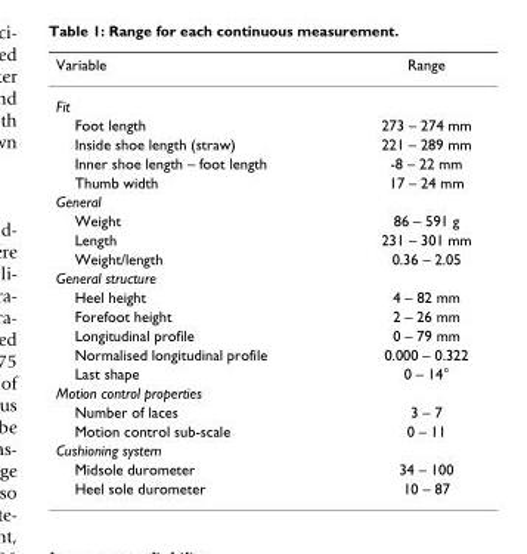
<table><thead><tr><td>Variable</td><td>Range</td></tr></thead><tbody><tr><td colspan="2">Fit</td></tr><tr><td>Foot length</td><td>273 – 274 mm</td></tr><tr><td>Inside shoe length (straw)</td><td>221 – 289 mm</td></tr><tr><td>Inner shoe length – foot length</td><td>-8 – 22 mm</td></tr><tr><td>Thumb width</td><td>17 – 24 mm</td></tr><tr><td colspan="2">General</td></tr><tr><td>Weight</td><td>86 – 591 g</td></tr><tr><td>Length</td><td>231 – 301 mm</td></tr><tr><td>Weight/length</td><td>0.36 – 2.05</td></tr><tr><td colspan="2">General structure</td></tr><tr><td>Heel height</td><td>4 – 82 mm</td></tr><tr><td>Forefoot height</td><td>2 – 26 mm</td></tr><tr><td>Longitudinal profile</td><td>0 – 79 mm</td></tr><tr><td>Normalised longitudinal profile</td><td>0.000 – 0.322</td></tr><tr><td>Last shape</td><td>0 – 14°</td></tr><tr><td colspan="2">Motion control properties</td></tr><tr><td>Number of laces</td><td>3 – 7</td></tr><tr><td>Motion control sub-scale</td><td>0 – 11</td></tr><tr><td colspan="2">Cushioning system</td></tr><tr><td>Midsole durometer</td><td>34 – 100</td></tr><tr><td>Heel sole durometer</td><td>10 – 87</td></tr></tbody></table>